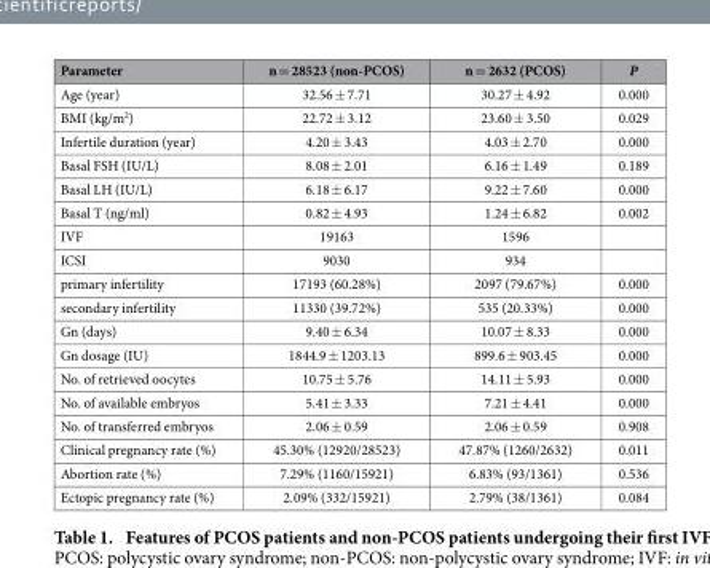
<table><thead><tr><td>Parameter</td><td>n = 28523 (non-PCOS)</td><td>n = 2632 (PCOS)</td><td>P</td></tr></thead><tbody><tr><td>Age (year)</td><td>32.56 ± 7.71</td><td>30.27 ± 4.92</td><td>0.000</td></tr><tr><td>BMI (kg/m<sup>2</sup>)</td><td>22.72 ± 3.12</td><td>23.60 ± 3.50</td><td>0.029</td></tr><tr><td>Infertile duration (year)</td><td>4.20 ± 3.43</td><td>4.03 ± 2.70</td><td>0.000</td></tr><tr><td>Basal FSH (IU/L)</td><td>8.08 ± 2.01</td><td>6.16 ± 1.49</td><td>0.189</td></tr><tr><td>Basal LH (IU/L)</td><td>6.18 ± 6.17</td><td>9.22 ± 7.60</td><td>0.000</td></tr><tr><td>Basal T (ng/ml)</td><td>0.82 ± 4.93</td><td>1.24 ± 6.82</td><td>0.002</td></tr><tr><td>IVF</td><td>19163</td><td>1596</td><td></td></tr><tr><td>ICSI</td><td>9030</td><td>934</td><td></td></tr><tr><td>primary infertility</td><td>17193 (60.28%)</td><td>2097 (79.67%)</td><td>0.000</td></tr><tr><td>secondary infertility</td><td>11330 (39.72%)</td><td>535 (20.33%)</td><td>0.000</td></tr><tr><td>Gn (days)</td><td>9.40 ± 6.34</td><td>10.07 ± 8.33</td><td>0.000</td></tr><tr><td>Gn dosage (IU)</td><td>1844.9 ± 1203.13</td><td>899.6 ± 903.45</td><td>0.000</td></tr><tr><td>No. of retrieved oocytes</td><td>10.75 ± 5.76</td><td>14.11 ± 5.93</td><td>0.000</td></tr><tr><td>No. of available embryos</td><td>5.41 ± 3.33</td><td>7.21 ± 4.41</td><td>0.000</td></tr><tr><td>No. of transferred embryos</td><td>2.06 ± 0.59</td><td>2.06 ± 0.59</td><td>0.908</td></tr><tr><td>Clinical pregnancy rate (%)</td><td>45.30% (12920/28523)</td><td>47.87% (1260/2632)</td><td>0.011</td></tr><tr><td>Abortion rate (%)</td><td>7.29% (1160/15921)</td><td>6.83% (93/1361)</td><td>0.536</td></tr><tr><td>Ectopic pregnancy rate (%)</td><td>2.09% (332/15921)</td><td>2.79% (38/1361)</td><td>0.084</td></tr></tbody></table>